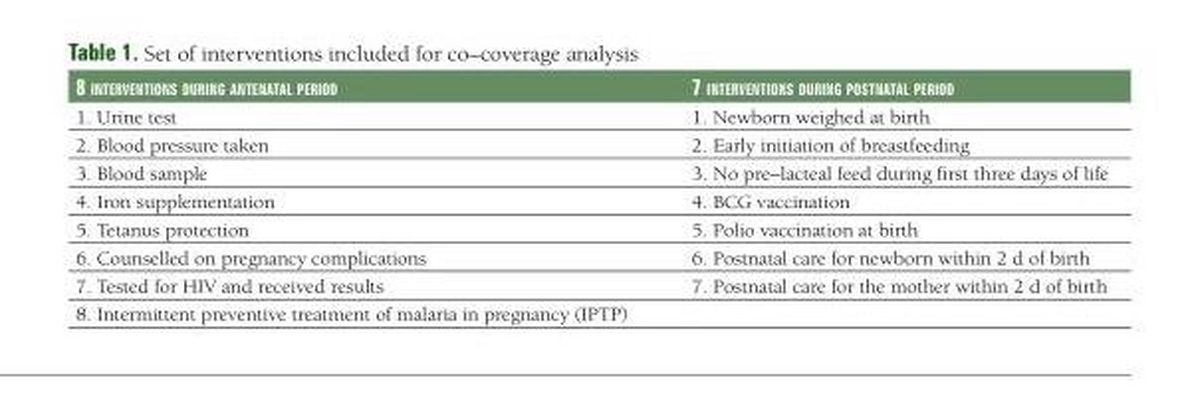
<table><thead><tr><td>8 interventions during antenatal period</td><td>7 interventions during postnatal period</td></tr></thead><tbody><tr><td>1. Urine test</td><td>1. Newborn weighed at birth</td></tr><tr><td>2. Blood pressure taken</td><td>2. Early initiation of breastfeeding</td></tr><tr><td>3. Blood sample</td><td>3. No pre–lacteal feed during first three days of life</td></tr><tr><td>4. Iron supplementation</td><td>4. BCG vaccination</td></tr><tr><td>5. Tetanus protection</td><td>5. Polio vaccination at birth</td></tr><tr><td>6. Counselled on pregnancy complications</td><td>6. Postnatal care for newborn within 2 d of birth</td></tr><tr><td>7. Tested for HIV and received results</td><td>7. Postnatal care for the mother within 2 d of birth</td></tr><tr><td>8. Intermittent preventive treatment of malaria in pregnancy (IPTP)</td><td></td></tr></tbody></table>